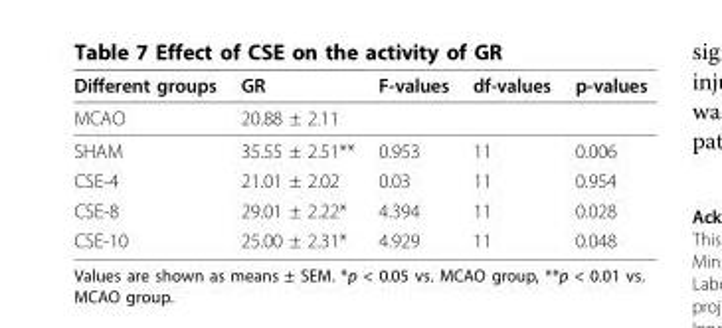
<table><thead><tr><td>Different groups</td><td>GR</td><td>F-values</td><td>df-values</td><td>p-values</td></tr></thead><tbody><tr><td>MCAO</td><td>20.88 ± 2.11</td><td></td><td></td><td></td></tr><tr><td>SHAM</td><td>35.55 ± 2.51**</td><td>0.953</td><td>11</td><td>0.006</td></tr><tr><td>CSE-4</td><td>21.01 ± 2.02</td><td>0.03</td><td>11</td><td>0.954</td></tr><tr><td>CSE-8</td><td>29.01 ± 2.22*</td><td>4.394</td><td>11</td><td>0.028</td></tr><tr><td>CSE-10</td><td>25.00 ± 2.31*</td><td>4.929</td><td>11</td><td>0.048</td></tr></tbody></table>